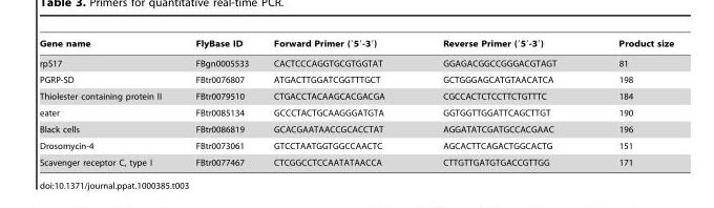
<table><thead><tr><td>Gene name</td><td>FlyBase ID</td><td>Forward Primer (′5′-3′)</td><td>Reverse Primer (′5′-3′)</td><td>Product size</td></tr></thead><tbody><tr><td>rpS17</td><td>FBgn0005533</td><td>CACTCCCAGGTGCGTGGTAT</td><td>GGAGACGGCCGGGACGTAGT</td><td>81</td></tr><tr><td>PGRP-SD</td><td>FBtr0076807</td><td>ATGACTTGGATCGGTTTGCT</td><td>GCTGGGAGCATGTAACATCA</td><td>198</td></tr><tr><td>Thiolester containing protein II</td><td>FBtr0079510</td><td>CTGACCTACAAGCACGACGA</td><td>CGCCACTCTCCTTCTGTTTC</td><td>184</td></tr><tr><td>eater</td><td>FBtr0085134</td><td>GCCCTACTGCAAGGGATGTA</td><td>GGTGGTTGGATTCAGCTTGT</td><td>190</td></tr><tr><td>Black cells</td><td>FBtr0086819</td><td>GCACGAATAACCGCACCTAT</td><td>AGGATATCGATGCCACGAAC</td><td>196</td></tr><tr><td>Drosomycin-4</td><td>FBtr0073061</td><td>GTCCTAATGGTGGCCAACTC</td><td>AGCACTTCAGACTGGCACTG</td><td>151</td></tr><tr><td>Scavenger receptor C, type I</td><td>FBtr0077467</td><td>CTCGGCCTCCAATATAACCA</td><td>CTTGTTGATGTGACCGTTGG</td><td>171</td></tr></tbody></table>